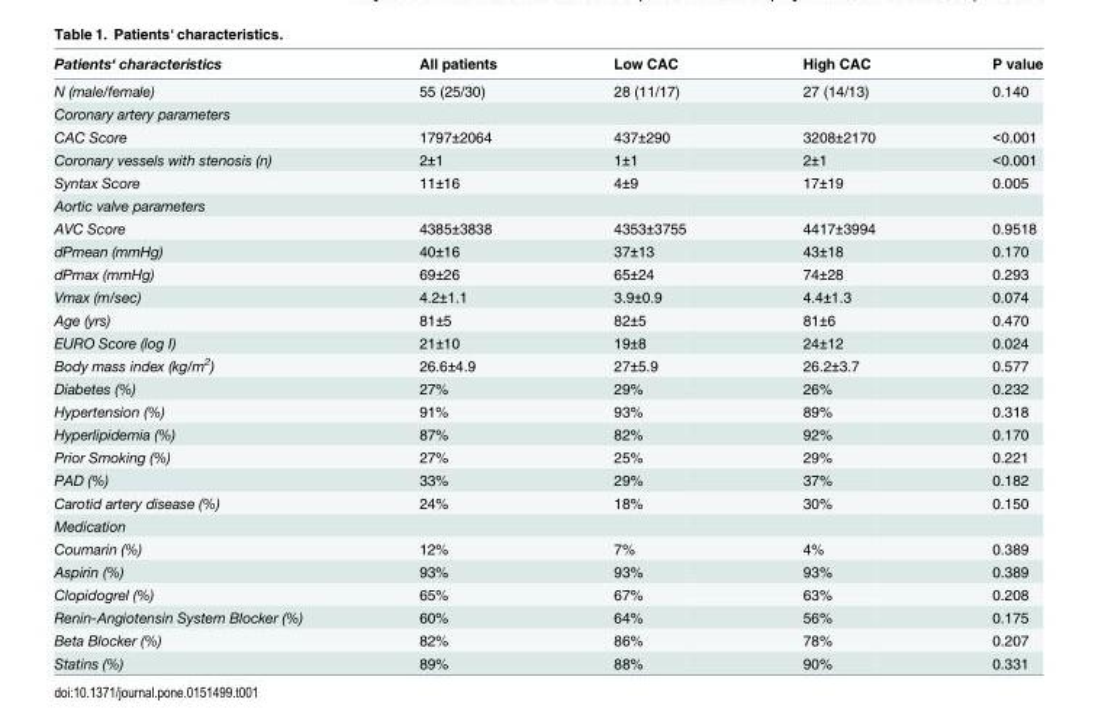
<table><thead><tr><td>Patients‘ characteristics</td><td>All patients</td><td>Low CAC</td><td>High CAC</td><td>P value</td></tr></thead><tbody><tr><td>N (male/female)</td><td>55 (25/30)</td><td>28 (11/17)</td><td>27 (14/13)</td><td>0.140</td></tr><tr><td colspan="5">Coronary artery parameters</td></tr><tr><td>CAC Score</td><td>1797±2064</td><td>437±290</td><td>3208±2170</td><td>&lt;0.001</td></tr><tr><td>Coronary vessels with stenosis (n)</td><td>2±1</td><td>1±1</td><td>2±1</td><td>&lt;0.001</td></tr><tr><td>Syntax Score</td><td>11±16</td><td>4±9</td><td>17±19</td><td>0.005</td></tr><tr><td colspan="5">Aortic valve parameters</td></tr><tr><td>AVC Score</td><td>4385±3838</td><td>4353±3755</td><td>4417±3994</td><td>0.9518</td></tr><tr><td>dPmean (mmHg)</td><td>40±16</td><td>37±13</td><td>43±18</td><td>0.170</td></tr><tr><td>dPmax (mmHg)</td><td>69±26</td><td>65±24</td><td>74±28</td><td>0.293</td></tr><tr><td>Vmax (m/sec)</td><td>4.2±1.1</td><td>3.9±0.9</td><td>4.4±1.3</td><td>0.074</td></tr><tr><td>Age (yrs)</td><td>81±5</td><td>82±5</td><td>81±6</td><td>0.470</td></tr><tr><td>EURO Score (log I)</td><td>21±10</td><td>19±8</td><td>24±12</td><td>0.024</td></tr><tr><td>Body mass index (kg/m<sup>2</sup>)</td><td>26.6±4.9</td><td>27±5.9</td><td>26.2±3.7</td><td>0.577</td></tr><tr><td>Diabetes (%)</td><td>27%</td><td>29%</td><td>26%</td><td>0.232</td></tr><tr><td>Hypertension (%)</td><td>91%</td><td>93%</td><td>89%</td><td>0.318</td></tr><tr><td>Hyperlipidemia (%)</td><td>87%</td><td>82%</td><td>92%</td><td>0.170</td></tr><tr><td>Prior Smoking (%)</td><td>27%</td><td>25%</td><td>29%</td><td>0.221</td></tr><tr><td>PAD (%)</td><td>33%</td><td>29%</td><td>37%</td><td>0.182</td></tr><tr><td>Carotid artery disease (%)</td><td>24%</td><td>18%</td><td>30%</td><td>0.150</td></tr><tr><td colspan="5">Medication</td></tr><tr><td>Coumarin (%)</td><td>12%</td><td>7%</td><td>4%</td><td>0.389</td></tr><tr><td>Aspirin (%)</td><td>93%</td><td>93%</td><td>93%</td><td>0.389</td></tr><tr><td>Clopidogrel (%)</td><td>65%</td><td>67%</td><td>63%</td><td>0.208</td></tr><tr><td>Renin-Angiotensin System Blocker (%)</td><td>60%</td><td>64%</td><td>56%</td><td>0.175</td></tr><tr><td>Beta Blocker (%)</td><td>82%</td><td>86%</td><td>78%</td><td>0.207</td></tr><tr><td>Statins (%)</td><td>89%</td><td>88%</td><td>90%</td><td>0.331</td></tr></tbody></table>